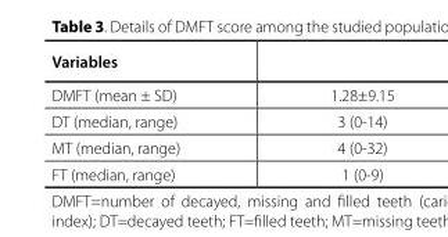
<table><thead><tr><td>Variables</td><td></td></tr></thead><tbody><tr><td>DMFT (mean ± SD)</td><td>1.28±9.15</td></tr><tr><td>DT (median, range)</td><td>3 (0-14)</td></tr><tr><td>MT (median, range)</td><td>4 (0-32)</td></tr><tr><td>FT (median, range)</td><td>1 (0-9)</td></tr></tbody></table>